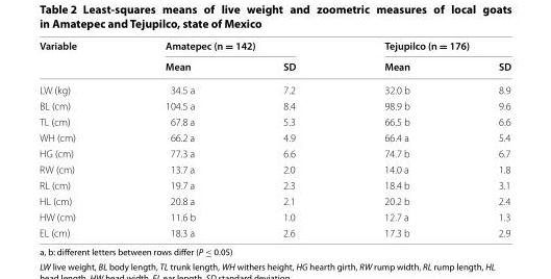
<table><thead><tr><td rowspan="2">Variable</td><td colspan="2">Amatepec (n = 142)</td><td colspan="2">Tejupilco (n = 176)</td></tr><tr><td>Mean</td><td>SD</td><td>Mean</td><td>SD</td></tr></thead><tbody><tr><td>LW (kg)</td><td>34.5 a</td><td>7.2</td><td>32.0 b</td><td>8.9</td></tr><tr><td>BL (cm)</td><td>104.5 a</td><td>8.4</td><td>98.9 b</td><td>9.6</td></tr><tr><td>TL (cm)</td><td>67.8 a</td><td>5.3</td><td>66.5 b</td><td>6.6</td></tr><tr><td>WH (cm)</td><td>66.2 a</td><td>4.9</td><td>66.4 a</td><td>5.4</td></tr><tr><td>HG (cm)</td><td>77.3 a</td><td>6.6</td><td>74.7 b</td><td>6.7</td></tr><tr><td>RW (cm)</td><td>13.7 a</td><td>2.0</td><td>14.0 a</td><td>1.8</td></tr><tr><td>RL (cm)</td><td>19.7 a</td><td>2.3</td><td>18.4 b</td><td>3.1</td></tr><tr><td>HL (cm)</td><td>20.8 a</td><td>2.1</td><td>20.2 b</td><td>2.4</td></tr><tr><td>HW (cm)</td><td>11.6 b</td><td>1.0</td><td>12.7 a</td><td>1.3</td></tr><tr><td>EL (cm)</td><td>18.3 a</td><td>2.6</td><td>17.3 b</td><td>2.9</td></tr></tbody></table>